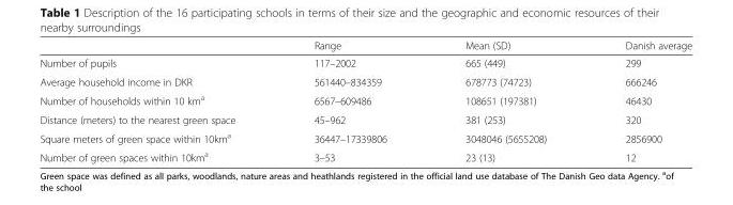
<table><thead><tr><td></td><td>Range</td><td>Mean (SD)</td><td>Danish average</td></tr></thead><tbody><tr><td>Number of pupils</td><td>117–2002</td><td>665 (449)</td><td>299</td></tr><tr><td>Average household income in DKR</td><td>561440–834359</td><td>678773 (74723)</td><td>666246</td></tr><tr><td>Number of households within 10 km<sup>a</sup></td><td>6567–609486</td><td>108651 (197381)</td><td>46430</td></tr><tr><td>Distance (meters) to the nearest green space</td><td>45–962</td><td>381 (253)</td><td>320</td></tr><tr><td>Square meters of green space within 10km<sup>a</sup></td><td>36447–17339806</td><td>3048046 (5655208)</td><td>2856900</td></tr><tr><td>Number of green spaces within 10km<sup>a</sup></td><td>3–53</td><td>23 (13)</td><td>12</td></tr></tbody></table>